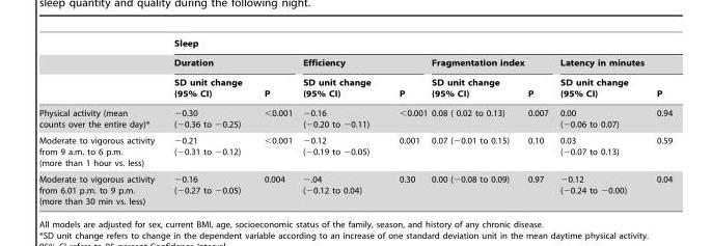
<table><thead><tr><td rowspan="3"></td><td colspan="8">Sleep</td></tr><tr><td colspan="2">Duration</td><td colspan="2">Efficiency</td><td colspan="2">Fragmentation index</td><td colspan="2">Latency in minutes</td></tr><tr><td>SD unit change (95% CI)</td><td>P</td><td>SD unit change (95% CI)</td><td>P</td><td>SD unit change (95% CI)</td><td>P</td><td>SD unit change (95% CI)</td><td>P</td></tr></thead><tbody><tr><td>Physical activity (mean counts over the entire day)*</td><td>−0.30 (−0.36 to −0.25)</td><td>&lt;0.001</td><td>−0.16 (−0.20 to −0.11)</td><td>&lt;0.001</td><td>0.08 ( 0.02 to 0.13)</td><td>0.007</td><td>0.00 (−0.06 to 0.07)</td><td>0.94</td></tr><tr><td>Moderate to vigorous activity from 9 a.m. to 6 p.m. (more than 1 hour vs. less)</td><td>−0.21 (−0.31 to −0.12)</td><td>&lt;0.001</td><td>−0.12 (−0.19 to −0.05)</td><td>0.001</td><td>0.07 (−0.01 to 0.15)</td><td>0.10</td><td>0.03 (−0.07 to 0.13)</td><td>0.59</td></tr><tr><td>Moderate to vigorous activity from 6.01 p.m. to 9 p.m. (more than 30 min vs. less)</td><td>−0.16 (−0.27 to −0.05)</td><td>0.004</td><td>−.04 (−0.12 to 0.04)</td><td>0.30</td><td>0.00 (−0.08 to 0.09)</td><td>0.97</td><td>−0.12 (−0.24 to −0.00)</td><td>0.04</td></tr></tbody></table>